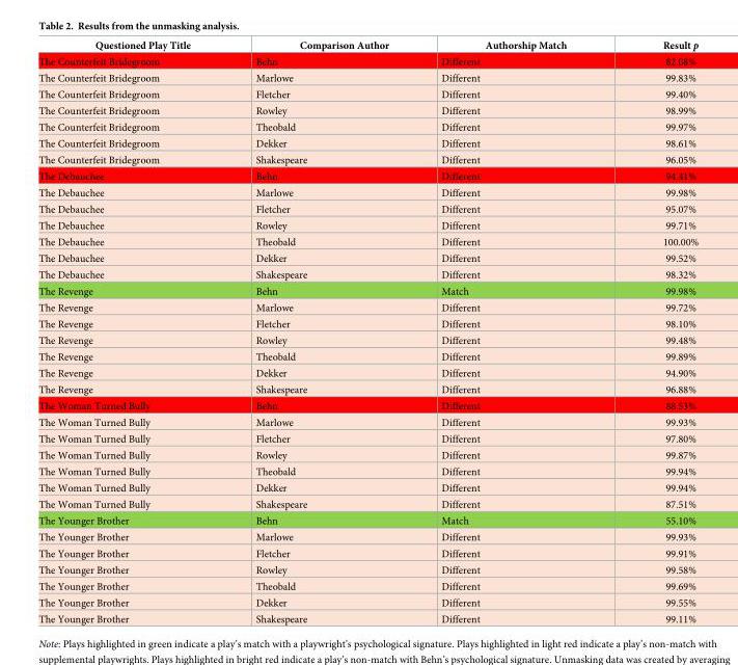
<table><thead><tr><td>Questioned Play Title</td><td>Comparison Author</td><td>Authorship Match</td><td>Result p</td></tr></thead><tbody><tr><td>The Counterfeit Bridegroom</td><td>Behn</td><td>Different</td><td>82.08%</td></tr><tr><td>The Counterfeit Bridegroom</td><td>Marlowe</td><td>Different</td><td>99.83%</td></tr><tr><td>The Counterfeit Bridegroom</td><td>Fletcher</td><td>Different</td><td>99.40%</td></tr><tr><td>The Counterfeit Bridegroom</td><td>Rowley</td><td>Different</td><td>98.99%</td></tr><tr><td>The Counterfeit Bridegroom</td><td>Theobald</td><td>Different</td><td>99.97%</td></tr><tr><td>The Counterfeit Bridegroom</td><td>Dekker</td><td>Different</td><td>98.61%</td></tr><tr><td>The Counterfeit Bridegroom</td><td>Shakespeare</td><td>Different</td><td>96.05%</td></tr><tr><td>The Debauchee</td><td>Behn</td><td>Different</td><td>94.41%</td></tr><tr><td>The Debauchee</td><td>Marlowe</td><td>Different</td><td>99.98%</td></tr><tr><td>The Debauchee</td><td>Fletcher</td><td>Different</td><td>95.07%</td></tr><tr><td>The Debauchee</td><td>Rowley</td><td>Different</td><td>99.71%</td></tr><tr><td>The Debauchee</td><td>Theobald</td><td>Different</td><td>100.00%</td></tr><tr><td>The Debauchee</td><td>Dekker</td><td>Different</td><td>99.52%</td></tr><tr><td>The Debauchee</td><td>Shakespeare</td><td>Different</td><td>98.32%</td></tr><tr><td>The Revenge</td><td>Behn</td><td>Match</td><td>99.98%</td></tr><tr><td>The Revenge</td><td>Marlowe</td><td>Different</td><td>99.72%</td></tr><tr><td>The Revenge</td><td>Fletcher</td><td>Different</td><td>98.10%</td></tr><tr><td>The Revenge</td><td>Rowley</td><td>Different</td><td>99.48%</td></tr><tr><td>The Revenge</td><td>Theobald</td><td>Different</td><td>99.89%</td></tr><tr><td>The Revenge</td><td>Dekker</td><td>Different</td><td>94.90%</td></tr><tr><td>The Revenge</td><td>Shakespeare</td><td>Different</td><td>96.88%</td></tr><tr><td>The Woman Turned Bully</td><td>Behn</td><td>Different</td><td>88.53%</td></tr><tr><td>The Woman Turned Bully</td><td>Marlowe</td><td>Different</td><td>99.93%</td></tr><tr><td>The Woman Turned Bully</td><td>Fletcher</td><td>Different</td><td>97.80%</td></tr><tr><td>The Woman Turned Bully</td><td>Rowley</td><td>Different</td><td>99.87%</td></tr><tr><td>The Woman Turned Bully</td><td>Theobald</td><td>Different</td><td>99.94%</td></tr><tr><td>The Woman Turned Bully</td><td>Dekker</td><td>Different</td><td>99.94%</td></tr><tr><td>The Woman Turned Bully</td><td>Shakespeare</td><td>Different</td><td>87.51%</td></tr><tr><td>The Younger Brother</td><td>Behn</td><td>Match</td><td>55.10%</td></tr><tr><td>The Younger Brother</td><td>Marlowe</td><td>Different</td><td>99.93%</td></tr><tr><td>The Younger Brother</td><td>Fletcher</td><td>Different</td><td>99.91%</td></tr><tr><td>The Younger Brother</td><td>Rowley</td><td>Different</td><td>99.58%</td></tr><tr><td>The Younger Brother</td><td>Theobald</td><td>Different</td><td>99.69%</td></tr><tr><td>The Younger Brother</td><td>Dekker</td><td>Different</td><td>99.55%</td></tr><tr><td>The Younger Brother</td><td>Shakespeare</td><td>Different</td><td>99.11%</td></tr></tbody></table>